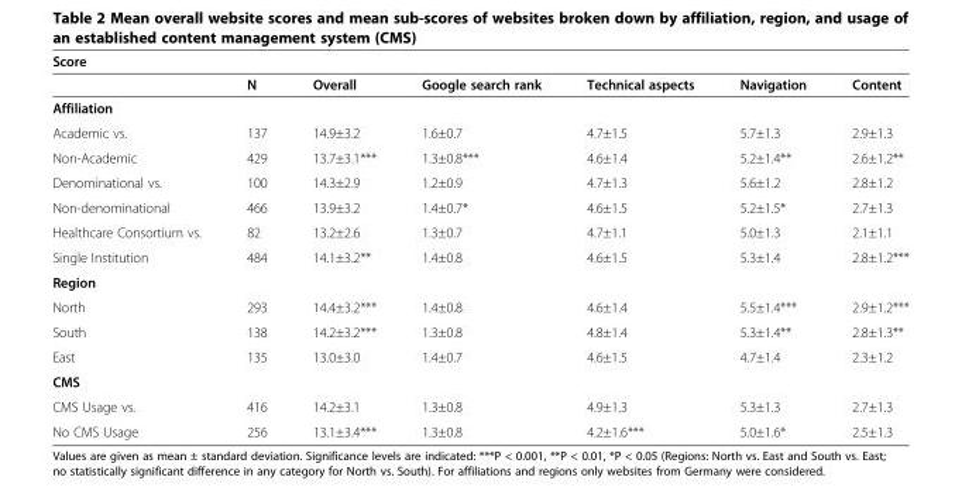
<table><thead><tr><td colspan="7">Score</td></tr><tr><td></td><td>N</td><td>Overall</td><td>Google search rank</td><td>Technical aspects</td><td>Navigation</td><td>Content</td></tr></thead><tbody><tr><td colspan="7">Affiliation</td></tr><tr><td>Academic vs.</td><td>137</td><td>14.9±3.2</td><td>1.6±0.7</td><td>4.7±1.5</td><td>5.7±1.3</td><td>2.9±1.3</td></tr><tr><td>Non-Academic</td><td>429</td><td>13.7±3.1***</td><td>1.3±0.8***</td><td>4.6±1.4</td><td>5.2±1.4**</td><td>2.6±1.2**</td></tr><tr><td>Denominational vs.</td><td>100</td><td>14.3±2.9</td><td>1.2±0.9</td><td>4.7±1.3</td><td>5.6±1.2</td><td>2.8±1.2</td></tr><tr><td>Non-denominational</td><td>466</td><td>13.9±3.2</td><td>1.4±0.7*</td><td>4.6±1.5</td><td>5.2±1.5*</td><td>2.7±1.3</td></tr><tr><td>Healthcare Consortium vs.</td><td>82</td><td>13.2±2.6</td><td>1.3±0.7</td><td>4.7±1.1</td><td>5.0±1.3</td><td>2.1±1.1</td></tr><tr><td>Single Institution</td><td>484</td><td>14.1±3.2**</td><td>1.4±0.8</td><td>4.6±1.5</td><td>5.3±1.4</td><td>2.8±1.2***</td></tr><tr><td colspan="7">Region</td></tr><tr><td>North</td><td>293</td><td>14.4±3.2***</td><td>1.4±0.8</td><td>4.6±1.4</td><td>5.5±1.4***</td><td>2.9±1.2***</td></tr><tr><td>South</td><td>138</td><td>14.2±3.2***</td><td>1.3±0.8</td><td>4.8±1.4</td><td>5.3±1.4**</td><td>2.8±1.3**</td></tr><tr><td>East</td><td>135</td><td>13.0±3.0</td><td>1.4±0.7</td><td>4.6±1.5</td><td>4.7±1.4</td><td>2.3±1.2</td></tr><tr><td colspan="7">CMS</td></tr><tr><td>CMS Usage vs.</td><td>416</td><td>14.2±3.1</td><td>1.3±0.8</td><td>4.9±1.3</td><td>5.3±1.3</td><td>2.7±1.3</td></tr><tr><td>No CMS Usage</td><td>256</td><td>13.1±3.4***</td><td>1.3±0.8</td><td>4.2±1.6***</td><td>5.0±1.6*</td><td>2.5±1.3</td></tr></tbody></table>